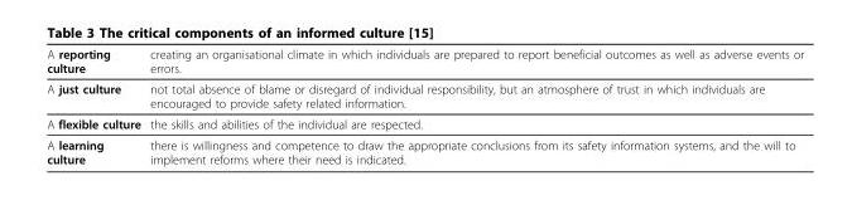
<table><thead><tr><td>A reporting culture</td><td>creating an organisational climate in which individuals are prepared to report beneficial outcomes as well as adverse events or errors.</td></tr></thead><tbody><tr><td>A just culture</td><td>not total absence of blame or disregard of individual responsibility, but an atmosphere of trust in which individuals are encouraged to provide safety related information.</td></tr><tr><td>A flexible culture</td><td>the skills and abilities of the individual are respected.</td></tr><tr><td>A learning culture</td><td>there is willingness and competence to draw the appropriate conclusions from its safety information systems, and the will to implement reforms where their need is indicated.</td></tr></tbody></table>